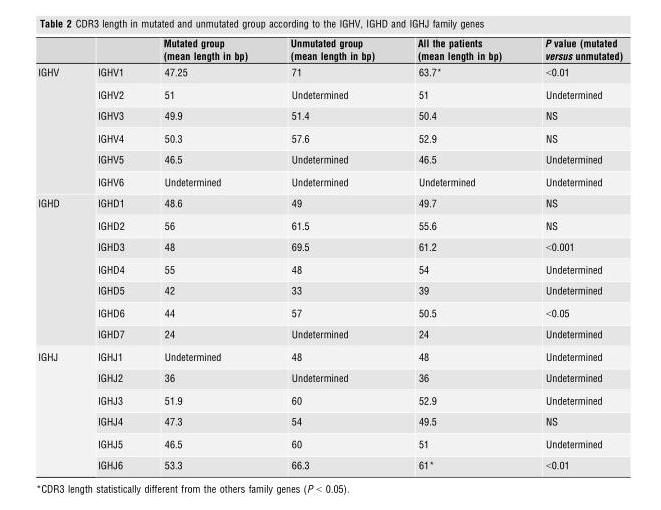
<table><thead><tr><td></td><td></td><td>Mutated group (mean length in bp)</td><td>Unmutated group (mean length in bp)</td><td>All the patients (mean length in bp)</td><td>P value (mutated versus unmutated)</td></tr></thead><tbody><tr><td rowspan="6">IGHV</td><td>IGHV1</td><td>47.25</td><td>71</td><td>63.7*</td><td>&lt;0.01</td></tr><tr><td>IGHV2</td><td>51</td><td>Undetermined</td><td>51</td><td>Undetermined</td></tr><tr><td>IGHV3</td><td>49.9</td><td>51.4</td><td>50.4</td><td>NS</td></tr><tr><td>IGHV4</td><td>50.3</td><td>57.6</td><td>52.9</td><td>NS</td></tr><tr><td>IGHV5</td><td>46.5</td><td>Undetermined</td><td>46.5</td><td>Undetermined</td></tr><tr><td>IGHV6</td><td>Undetermined</td><td>Undetermined</td><td>Undetermined</td><td>Undetermined</td></tr><tr><td rowspan="7">IGHD</td><td>IGHD1</td><td>48.6</td><td>49</td><td>49.7</td><td>NS</td></tr><tr><td>IGHD2</td><td>56</td><td>61.5</td><td>55.6</td><td>NS</td></tr><tr><td>IGHD3</td><td>48</td><td>69.5</td><td>61.2</td><td>&lt;0.001</td></tr><tr><td>IGHD4</td><td>55</td><td>48</td><td>54</td><td>Undetermined</td></tr><tr><td>IGHD5</td><td>42</td><td>33</td><td>39</td><td>Undetermined</td></tr><tr><td>IGHD6</td><td>44</td><td>57</td><td>50.5</td><td>&lt;0.05</td></tr><tr><td>IGHD7</td><td>24</td><td>Undetermined</td><td>24</td><td>Undetermined</td></tr><tr><td rowspan="6">IGHJ</td><td>IGHJ1</td><td>Undetermined</td><td>48</td><td>48</td><td>Undetermined</td></tr><tr><td>IGHJ2</td><td>36</td><td>Undetermined</td><td>36</td><td>Undetermined</td></tr><tr><td>IGHJ3</td><td>51.9</td><td>60</td><td>52.9</td><td>Undetermined</td></tr><tr><td>IGHJ4</td><td>47.3</td><td>54</td><td>49.5</td><td>NS</td></tr><tr><td>IGHJ5</td><td>46.5</td><td>60</td><td>51</td><td>Undetermined</td></tr><tr><td>IGHJ6</td><td>53.3</td><td>66.3</td><td>61*</td><td>&lt;0.01</td></tr></tbody></table>